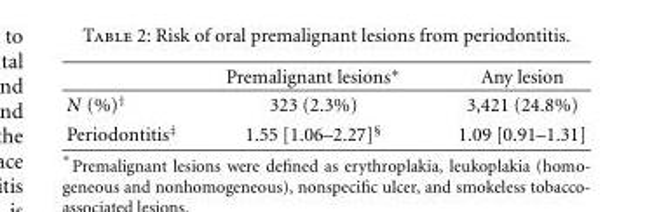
<table><thead><tr><td></td><td>Premalignant lesions∗</td><td>Any lesion</td></tr></thead><tbody><tr><td>N (%)<sup>†</sup></td><td>323 (2.3%)</td><td>3,421 (24.8%)</td></tr><tr><td>Periodontitis<sup>‡</sup></td><td>1.55 [1.06–2.27]<sup>§</sup></td><td>1.09 [0.91–1.31]</td></tr></tbody></table>